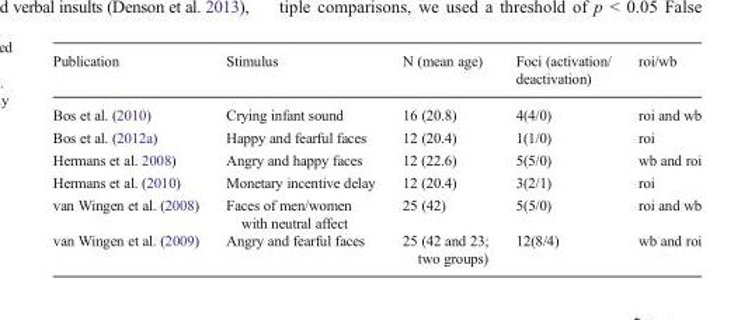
<table><thead><tr><td>Publication</td><td>Stimulus</td><td>N (mean age)</td><td>Foci (activation/ deactivation)</td><td>roi/wb</td></tr></thead><tbody><tr><td>Bos et al. (2010)</td><td>Crying infant sound</td><td>16 (20.8)</td><td>4(4/0)</td><td>roi and wb</td></tr><tr><td>Bos et al. (2012a)</td><td>Happy and fearful faces</td><td>12 (20.4)</td><td>1(1/0)</td><td>roi</td></tr><tr><td>Hermans et al. 2008)</td><td>Angry and happy faces</td><td>12 (22.6)</td><td>5(5/0)</td><td>wb and roi</td></tr><tr><td>Hermans et al. (2010)</td><td>Monetary incentive delay</td><td>12 (20.4)</td><td>3(2/1)</td><td>roi</td></tr><tr><td>van Wingen et al. (2008)</td><td>Faces of men/women with neutral affect</td><td>25 (42)</td><td>5(5/0)</td><td>roi and wb</td></tr><tr><td>van Wingen et al. (2009)</td><td>Angry and fearful faces</td><td>25 (42 and 23; two groups)</td><td>12(8/4)</td><td>wb and roi</td></tr></tbody></table>